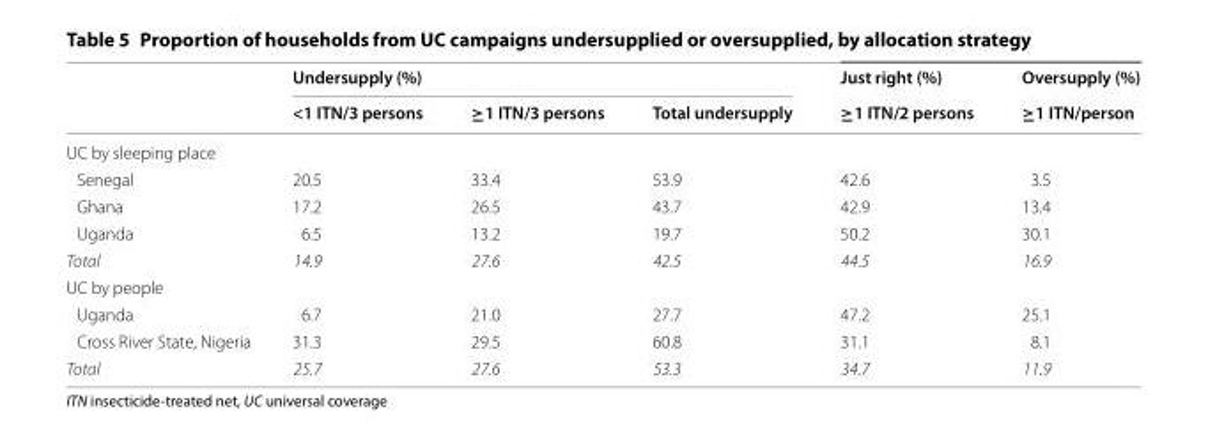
<table><thead><tr><td rowspan="2"></td><td colspan="3">Undersupply (%)</td><td rowspan="2">Just right (%) ≥1 ITN/2 persons</td><td rowspan="2">Oversupply (%) ≥1 ITN/person</td></tr><tr><td>&lt;1 ITN/3 persons</td><td>≥1 ITN/3 persons</td><td>Total undersupply</td></tr></thead><tbody><tr><td colspan="6">UC by sleeping place</td></tr><tr><td>Senegal</td><td>20.5</td><td>33.4</td><td>53.9</td><td>42.6</td><td>3.5</td></tr><tr><td>Ghana</td><td>17.2</td><td>26.5</td><td>43.7</td><td>42.9</td><td>13.4</td></tr><tr><td>Uganda</td><td>6.5</td><td>13.2</td><td>19.7</td><td>50.2</td><td>30.1</td></tr><tr><td>Total</td><td>14.9</td><td>27.6</td><td>42.5</td><td>44.5</td><td>16.9</td></tr><tr><td colspan="6">UC by people</td></tr><tr><td>Uganda</td><td>6.7</td><td>21.0</td><td>27.7</td><td>47.2</td><td>25.1</td></tr><tr><td>Cross River State, Nigeria</td><td>31.3</td><td>29.5</td><td>60.8</td><td>31.1</td><td>8.1</td></tr><tr><td>Total</td><td>25.7</td><td>27.6</td><td>53.3</td><td>34.7</td><td>11.9</td></tr></tbody></table>